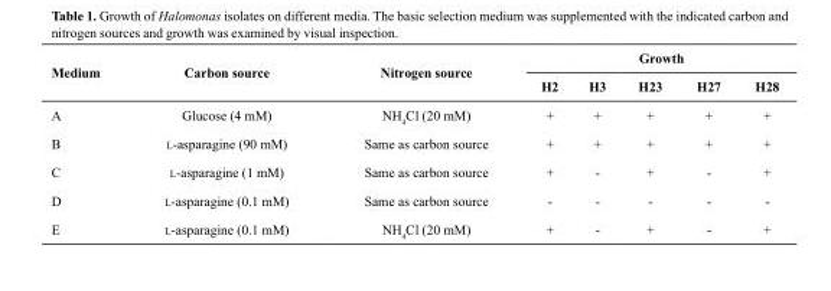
<table><thead><tr><td rowspan="2">Medium</td><td rowspan="2">Carbon source</td><td rowspan="2">Nitrogen source</td><td colspan="5">Growth</td></tr><tr><td>H2</td><td>H3</td><td>H23</td><td>H27</td><td>H28</td></tr></thead><tbody><tr><td>A</td><td>Glucose (4 mM)</td><td>NH<sub>4</sub>Cl (20 mM)</td><td>+</td><td>+</td><td>+</td><td>+</td><td>+</td></tr><tr><td>B</td><td>L-asparagine (90 mM)</td><td>Same as carbon source</td><td>+</td><td>+</td><td>+</td><td>+</td><td>+</td></tr><tr><td>C</td><td>L-asparagine (1 mM)</td><td>Same as carbon source</td><td>+</td><td>-</td><td>+</td><td>-</td><td>+</td></tr><tr><td>D</td><td>L-asparagine (0.1 mM)</td><td>Same as carbon source</td><td>-</td><td>-</td><td>-</td><td>-</td><td>-</td></tr><tr><td>E</td><td>L-asparagine (0.1 mM)</td><td>NH<sub>4</sub>Cl (20 mM)</td><td>+</td><td>-</td><td>+</td><td>-</td><td>+</td></tr></tbody></table>